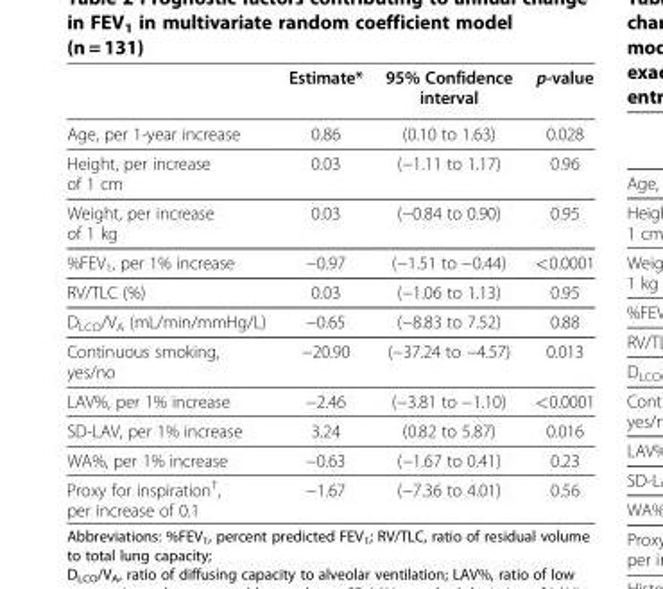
<table><thead><tr><td></td><td>Estimate*</td><td>95% Confidence interval</td><td>p-value</td></tr></thead><tbody><tr><td>Age, per 1-year increase</td><td>0.86</td><td>(0.10 to 1.63)</td><td>0.028</td></tr><tr><td>Height, per increase of 1 cm</td><td>0.03</td><td>(−1.11 to 1.17)</td><td>0.96</td></tr><tr><td>Weight, per increase of 1 kg</td><td>0.03</td><td>(−0.84 to 0.90)</td><td>0.95</td></tr><tr><td>%FEV<sub>1</sub>, per 1% increase</td><td>−0.97</td><td>(−1.51 to −0.44)</td><td>&lt;0.0001</td></tr><tr><td>RV/TLC (%)</td><td>0.03</td><td>(−1.06 to 1.13)</td><td>0.95</td></tr><tr><td>D<sub>LCO</sub>/V<sub>A</sub> (mL/min/mmHg/L)</td><td>−0.65</td><td>(−8.83 to 7.52)</td><td>0.88</td></tr><tr><td>Continuous smoking, yes/no</td><td>−20.90</td><td>(−37.24 to −4.57)</td><td>0.013</td></tr><tr><td>LAV%, per 1% increase</td><td>−2.46</td><td>(−3.81 to −1.10)</td><td>&lt;0.0001</td></tr><tr><td>SD-LAV, per 1% increase</td><td>3.24</td><td>(0.82 to 5.87)</td><td>0.016</td></tr><tr><td>WA%, per 1% increase</td><td>−0.63</td><td>(−1.67 to 0.41)</td><td>0.23</td></tr><tr><td>Proxy for inspiration<sup>†</sup>, per increase of 0.1</td><td>−1.67</td><td>(−7.36 to 4.01)</td><td>0.56</td></tr></tbody></table>